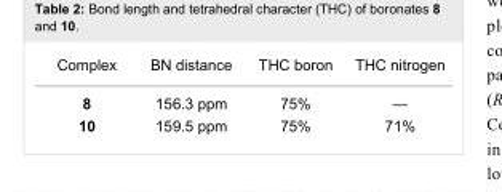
<table><tbody><tr><td>Complex</td><td>BN distance</td><td>THC boron</td><td>THC nitrogen</td></tr><tr><td>8</td><td>156.3 ppm</td><td>75%</td><td>—</td></tr><tr><td>10</td><td>159.5 ppm</td><td>75%</td><td>71%</td></tr></tbody></table>